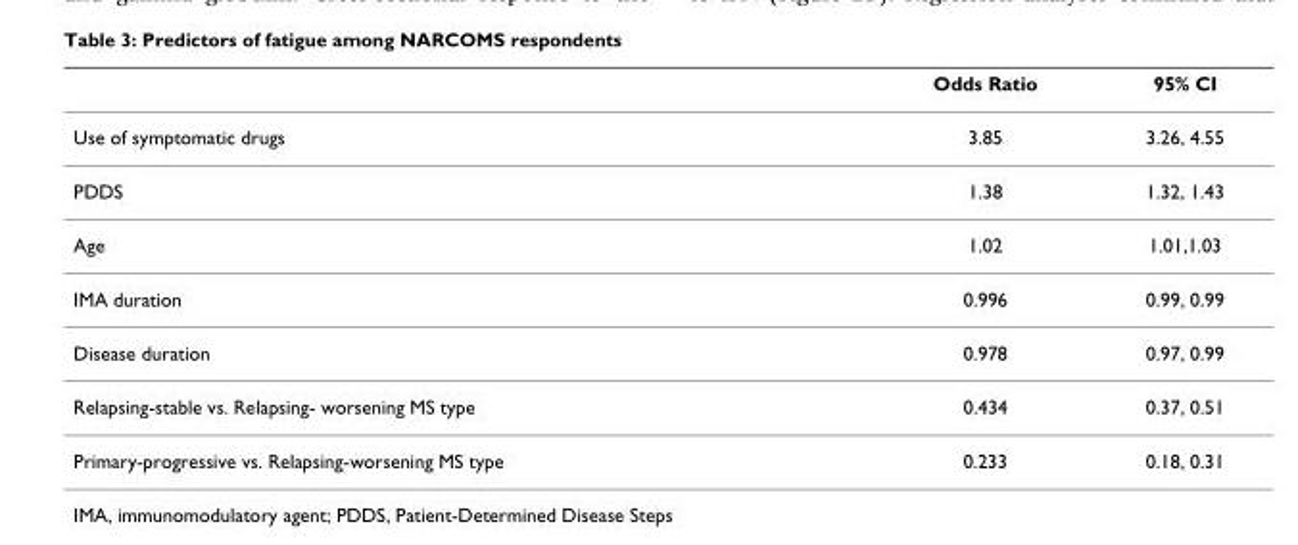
<table><thead><tr><td></td><td>Odds Ratio</td><td>95% CI</td></tr></thead><tbody><tr><td>Use of symptomatic drugs</td><td>3.85</td><td>3.26, 4.55</td></tr><tr><td>PDDS</td><td>1.38</td><td>1.32, 1.43</td></tr><tr><td>Age</td><td>1.02</td><td>1.01,1.03</td></tr><tr><td>IMA duration</td><td>0.996</td><td>0.99, 0.99</td></tr><tr><td>Disease duration</td><td>0.978</td><td>0.97, 0.99</td></tr><tr><td>Relapsing-stable vs. Relapsing- worsening MS type</td><td>0.434</td><td>0.37, 0.51</td></tr><tr><td>Primary-progressive vs. Relapsing-worsening MS type</td><td>0.233</td><td>0.18, 0.31</td></tr></tbody></table>